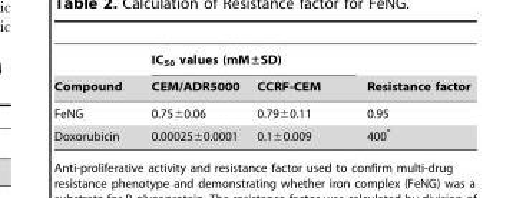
<table><thead><tr><td rowspan="2">Compound</td><td colspan="2">IC<sub>50</sub> values (mM±SD)</td><td rowspan="2">Resistance factor</td></tr><tr><td>CEM/ADR5000</td><td>CCRF-CEM</td></tr></thead><tbody><tr><td>FeNG</td><td>0.75±0.06</td><td>0.79±0.11</td><td>0.95</td></tr><tr><td>Doxorubicin</td><td>0.00025±0.0001</td><td>0.1±0.009</td><td>400*</td></tr></tbody></table>